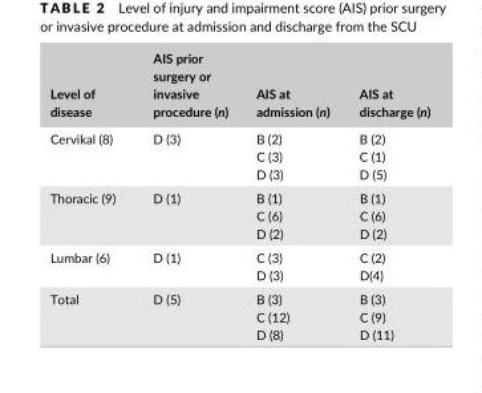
<table><thead><tr><td>Level of disease</td><td>AIS prior surgery or invasive procedure (n)</td><td>AIS at admission (n)</td><td>AIS at discharge (n)</td></tr></thead><tbody><tr><td rowspan="3">Cervikal (8)</td><td rowspan="3">D (3)</td><td>B (2)</td><td>B (2)</td></tr><tr><td>C (3)</td><td>C (1)</td></tr><tr><td>D (3)</td><td>D (5)</td></tr><tr><td rowspan="3">Thoracic (9)</td><td rowspan="3">D (1)</td><td>B (1)</td><td>B (1)</td></tr><tr><td>C (6)</td><td>C (6)</td></tr><tr><td>D (2)</td><td>D (2)</td></tr><tr><td rowspan="2">Lumbar (6)</td><td rowspan="2">D (1)</td><td>C (3)</td><td>C (2)</td></tr><tr><td>D (3)</td><td>D(4)</td></tr><tr><td rowspan="3">Total</td><td rowspan="3">D (5)</td><td>B (3)</td><td>B (3)</td></tr><tr><td>C (12)</td><td>C (9)</td></tr><tr><td>D (8)</td><td>D (11)</td></tr></tbody></table>